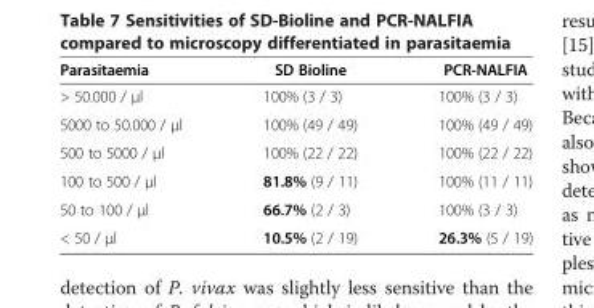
<table><thead><tr><td>Parasitaemia</td><td>SD Bioline</td><td>PCR-NALFIA</td></tr></thead><tbody><tr><td>&gt; 50.000 / μl</td><td>100% (3 / 3)</td><td>100% (3 / 3)</td></tr><tr><td>5000 to 50.000 / μl</td><td>100% (49 / 49)</td><td>100% (49 / 49)</td></tr><tr><td>500 to 5000 / μl</td><td>100% (22 / 22)</td><td>100% (22 / 22)</td></tr><tr><td>100 to 500 / μl</td><td>81.8% (9 / 11)</td><td>100% (11 / 11)</td></tr><tr><td>50 to 100 / μl</td><td>66.7% (2 / 3)</td><td>100% (3 / 3)</td></tr><tr><td>&lt; 50 / μl</td><td>10.5% (2 / 19)</td><td>26.3% (5 / 19)</td></tr></tbody></table>